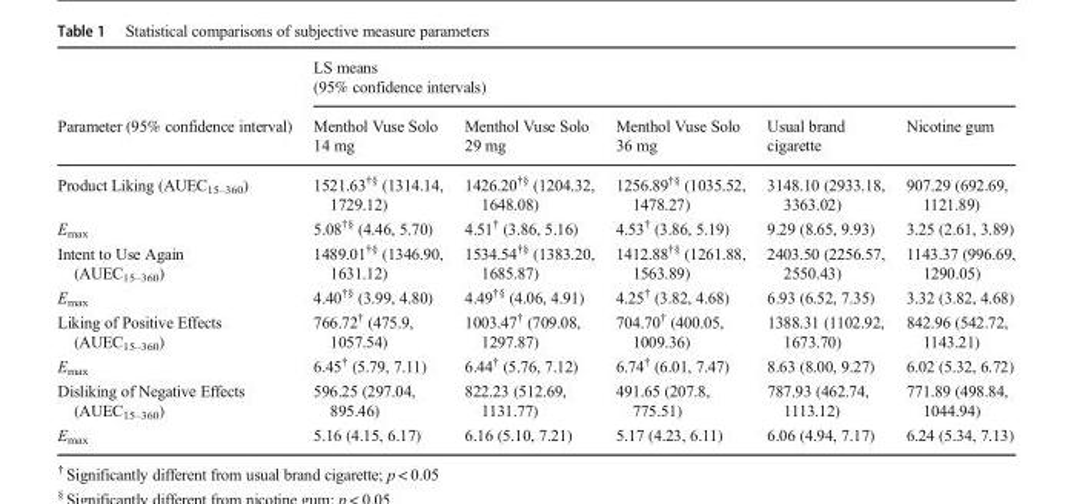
<table><thead><tr><td rowspan="2">Parameter (95% confidence interval)</td><td colspan="5">LS means (95% confidence intervals)</td></tr><tr><td>Menthol Vuse Solo 14 mg</td><td>Menthol Vuse Solo 29 mg</td><td>Menthol Vuse Solo 36 mg</td><td>Usual brand cigarette</td><td>Nicotine gum</td></tr></thead><tbody><tr><td>Product Liking (AUEC<sub>15–360</sub>)</td><td>1521.63<sup>†§</sup> (1314.14, 1729.12)</td><td>1426.20<sup>†§</sup> (1204.32, 1648.08)</td><td>1256.89<sup>†§</sup> (1035.52, 1478.27)</td><td>3148.10 (2933.18, 3363.02)</td><td>907.29 (692.69, 1121.89)</td></tr><tr><td>E<sub>max</sub></td><td>5.08<sup>†§</sup> (4.46, 5.70)</td><td>4.51<sup>†</sup> (3.86, 5.16)</td><td>4.53<sup>†</sup> (3.86, 5.19)</td><td>9.29 (8.65, 9.93)</td><td>3.25 (2.61, 3.89)</td></tr><tr><td>Intent to Use Again (AUEC<sub>15–360</sub>)</td><td>1489.01<sup>†§</sup> (1346.90, 1631.12)</td><td>1534.54<sup>†§</sup> (1383.20, 1685.87)</td><td>1412.88<sup>†§</sup> (1261.88, 1563.89)</td><td>2403.50 (2256.57, 2550.43)</td><td>1143.37 (996.69, 1290.05)</td></tr><tr><td>E<sub>max</sub></td><td>4.40<sup>†§</sup> (3.99, 4.80)</td><td>4.49<sup>†§</sup> (4.06, 4.91)</td><td>4.25<sup>†</sup> (3.82, 4.68)</td><td>6.93 (6.52, 7.35)</td><td>3.32 (3.82, 4.68)</td></tr><tr><td>Liking of Positive Effects (AUEC<sub>15–360</sub>)</td><td>766.72<sup>†</sup> (475.9, 1057.54)</td><td>1003.47<sup>†</sup> (709.08, 1297.87)</td><td>704.70<sup>†</sup> (400.05, 1009.36)</td><td>1388.31 (1102.92, 1673.70)</td><td>842.96 (542.72, 1143.21)</td></tr><tr><td>E<sub>max</sub></td><td>6.45<sup>†</sup> (5.79, 7.11)</td><td>6.44<sup>†</sup> (5.76, 7.12)</td><td>6.74<sup>†</sup> (6.01, 7.47)</td><td>8.63 (8.00, 9.27)</td><td>6.02 (5.32, 6.72)</td></tr><tr><td>Disliking of Negative Effects (AUEC<sub>15–360</sub>)</td><td>596.25 (297.04, 895.46)</td><td>822.23 (512.69, 1131.77)</td><td>491.65 (207.8, 775.51)</td><td>787.93 (462.74, 1113.12)</td><td>771.89 (498.84, 1044.94)</td></tr><tr><td>E<sub>max</sub></td><td>5.16 (4.15, 6.17)</td><td>6.16 (5.10, 7.21)</td><td>5.17 (4.23, 6.11)</td><td>6.06 (4.94, 7.17)</td><td>6.24 (5.34, 7.13)</td></tr></tbody></table>